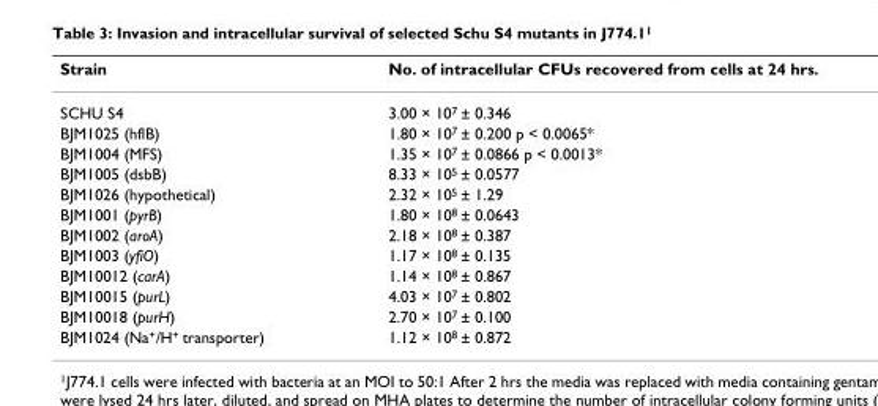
<table><thead><tr><td>Strain</td><td>No. of intracellular CFUs recovered from cells at 24 hrs.</td></tr></thead><tbody><tr><td>SCHU S4</td><td>3.00 × 107 ± 0.346</td></tr><tr><td>BJM1025 (hflB)</td><td>1.80 × 107 ± 0.200 p &lt; 0.0065*</td></tr><tr><td>BJM1004 (MFS)</td><td>1.35 × 107 ± 0.0866 p &lt; 0.0013*</td></tr><tr><td>BJM1005 (dsbB)</td><td>8.33 × 105 ± 0.0577</td></tr><tr><td>BJM1026 (hypothetical)</td><td>2.32 × 105 ± 1.29</td></tr><tr><td>BJM1001 (pyrB)</td><td>1.80 × 108 ± 0.0643</td></tr><tr><td>BJM1002 (aroA)</td><td>2.18 × 108 ± 0.387</td></tr><tr><td>BJM1003 (yfiO)</td><td>1.17 × 108 ± 0.135</td></tr><tr><td>BJM10012 (carA)</td><td>1.14 × 108 ± 0.867</td></tr><tr><td>BJM10015 (purL)</td><td>4.03 × 107 ± 0.802</td></tr><tr><td>BJM10018 (purH)</td><td>2.70 × 107 ± 0.100</td></tr><tr><td>BJM1024 (Na+/H+ transporter)</td><td>1.12 × 108 ± 0.872</td></tr></tbody></table>